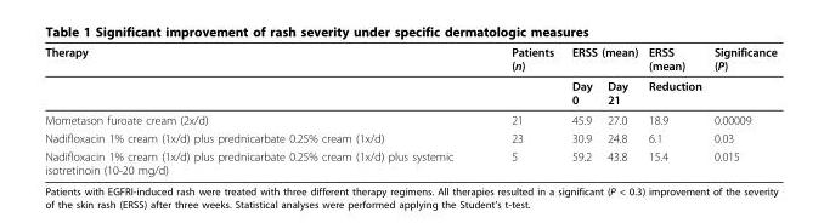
<table><thead><tr><td rowspan="2">Therapy</td><td rowspan="2">Patients (n)</td><td colspan="2">ERSS (mean)</td><td rowspan="2">ERSS (mean) Reduction</td><td rowspan="2">Significance (P)</td></tr><tr><td>Day 0</td><td>Day 21</td></tr></thead><tbody><tr><td>Mometason furoate cream (2x/d)</td><td>21</td><td>45.9</td><td>27.0</td><td>18.9</td><td>0.00009</td></tr><tr><td>Nadifloxacin 1% cream (1x/d) plus prednicarbate 0.25% cream (1x/d)</td><td>23</td><td>30.9</td><td>24.8</td><td>6.1</td><td>0.03</td></tr><tr><td>Nadifloxacin 1% cream (1x/d) plus prednicarbate 0.25% cream (1x/d) plus systemic isotretinoin (10-20 mg/d)</td><td>5</td><td>59.2</td><td>43.8</td><td>15.4</td><td>0.015</td></tr></tbody></table>